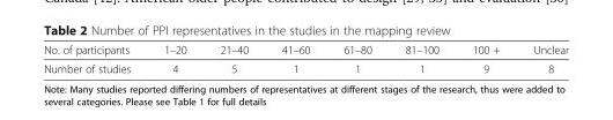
<table><thead><tr><td>No. of participants</td><td>1–20</td><td>21–40</td><td>41–60</td><td>61–80</td><td>81–100</td><td>100 +</td><td>Unclear</td></tr></thead><tbody><tr><td>Number of studies</td><td>4</td><td>5</td><td>1</td><td>1</td><td>1</td><td>9</td><td>8</td></tr></tbody></table>